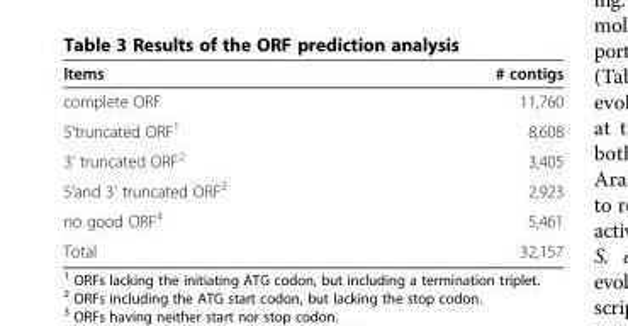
<table><thead><tr><td>Items</td><td># contigs</td></tr></thead><tbody><tr><td>complete ORF</td><td>11,760</td></tr><tr><td>5&#x27;truncated ORF<sup>1</sup></td><td>8,608</td></tr><tr><td>3&#x27; truncated ORF<sup>2</sup></td><td>3,405</td></tr><tr><td>5&#x27;and 3&#x27; truncated ORF<sup>3</sup></td><td>2,923</td></tr><tr><td>no good ORF<sup>4</sup></td><td>5,461</td></tr><tr><td>Total</td><td>32,157</td></tr></tbody></table>